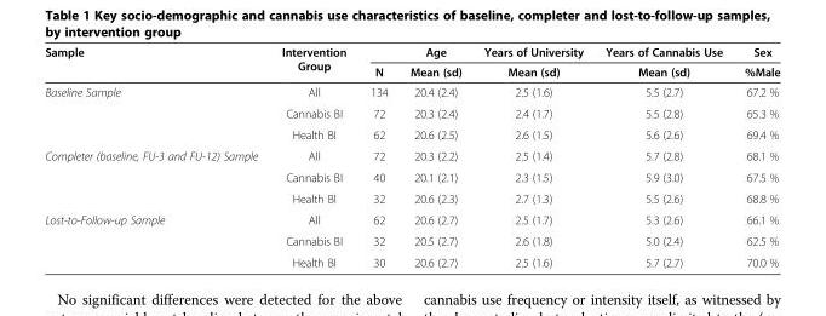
<table><thead><tr><td rowspan="2">Sample</td><td rowspan="2">Intervention Group</td><td rowspan="2">N</td><td rowspan="2">Age Mean (sd)</td><td rowspan="2">Years of University Mean (sd)</td><td rowspan="2">Years of Cannabis Use Mean (sd)</td><td rowspan="2">Sex %Male</td></tr><tr></tr></thead><tbody><tr><td rowspan="3">Baseline Sample</td><td>All</td><td>134</td><td>20.4 (2.4)</td><td>2.5 (1.6)</td><td>5.5 (2.7)</td><td>67.2 %</td></tr><tr><td>Cannabis BI</td><td>72</td><td>20.3 (2.4)</td><td>2.4 (1.7)</td><td>5.5 (2.8)</td><td>65.3 %</td></tr><tr><td>Health BI</td><td>62</td><td>20.6 (2.5)</td><td>2.6 (1.5)</td><td>5.6 (2.6)</td><td>69.4 %</td></tr><tr><td rowspan="3">Completer (baseline, FU-3 and FU-12) Sample</td><td>All</td><td>72</td><td>20.3 (2.2)</td><td>2.5 (1.4)</td><td>5.7 (2.8)</td><td>68.1 %</td></tr><tr><td>Cannabis BI</td><td>40</td><td>20.1 (2.1)</td><td>2.3 (1.5)</td><td>5.9 (3.0)</td><td>67.5 %</td></tr><tr><td>Health BI</td><td>32</td><td>20.6 (2.3)</td><td>2.7 (1.3)</td><td>5.5 (2.6)</td><td>68.8 %</td></tr><tr><td rowspan="3">Lost-to-Follow-up Sample</td><td>All</td><td>62</td><td>20.6 (2.7)</td><td>2.5 (1.7)</td><td>5.3 (2.6)</td><td>66.1 %</td></tr><tr><td>Cannabis BI</td><td>32</td><td>20.5 (2.7)</td><td>2.6 (1.8)</td><td>5.0 (2.4)</td><td>62.5 %</td></tr><tr><td>Health BI</td><td>30</td><td>20.6 (2.7)</td><td>2.5 (1.6)</td><td>5.7 (2.7)</td><td>70.0 %</td></tr></tbody></table>